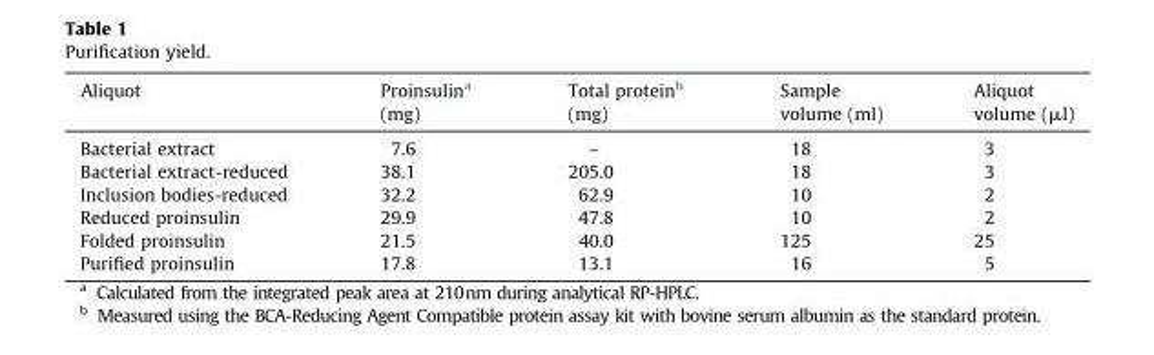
<table><thead><tr><td>Aliquot</td><td>Proinsulin<sup>a</sup> (mg)</td><td>Total protein<sup>b</sup> (mg)</td><td>Sample volume (ml)</td><td>Aliquot volume (μl)</td></tr></thead><tbody><tr><td>Bacterial extract</td><td>7.6</td><td>–</td><td>18</td><td>3</td></tr><tr><td>Bacterial extract-reduced</td><td>38.1</td><td>205.0</td><td>18</td><td>3</td></tr><tr><td>Inclusion bodies-reduced</td><td>32.2</td><td>62.9</td><td>10</td><td>2</td></tr><tr><td>Reduced proinsulin</td><td>29.9</td><td>47.8</td><td>10</td><td>2</td></tr><tr><td>Folded proinsulin</td><td>21.5</td><td>40.0</td><td>125</td><td>25</td></tr><tr><td>Purified proinsulin</td><td>17.8</td><td>13.1</td><td>16</td><td>5</td></tr></tbody></table>